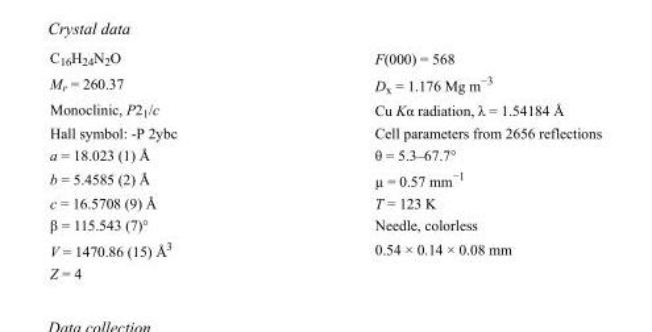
<table><tbody><tr><td>C<sub>16</sub>H<sub>24</sub>N<sub>2</sub>O</td><td>F(000) = 568</td></tr><tr><td>M<sub>r</sub> = 260.37</td><td>D<sub>x</sub> = 1.176 Mg m<sup>−3</sup></td></tr><tr><td>Monoclinic, P2<sub>1</sub>/c</td><td>Cu Kα radiation, λ = 1.54184 Å</td></tr><tr><td>Hall symbol: -P 2ybc</td><td>Cell parameters from 2656 reflections</td></tr><tr><td>a = 18.023 (1) Å</td><td>θ = 5.3–67.7°</td></tr><tr><td>b = 5.4585 (2) Å</td><td>µ = 0.57 mm<sup>−1</sup></td></tr><tr><td>c = 16.5708 (9) Å</td><td>T = 123 K</td></tr><tr><td>β = 115.543 (7)°</td><td>Needle, colorless</td></tr><tr><td>V = 1470.86 (15) Å<sup>3</sup></td><td>0.54 × 0.14 × 0.08 mm</td></tr><tr><td>Z = 4</td><td></td></tr></tbody></table>